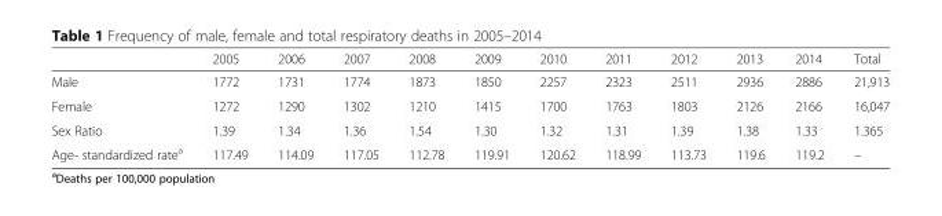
<table><thead><tr><td></td><td>2005</td><td>2006</td><td>2007</td><td>2008</td><td>2009</td><td>2010</td><td>2011</td><td>2012</td><td>2013</td><td>2014</td><td>Total</td></tr></thead><tbody><tr><td>Male</td><td>1772</td><td>1731</td><td>1774</td><td>1873</td><td>1850</td><td>2257</td><td>2323</td><td>2511</td><td>2936</td><td>2886</td><td>21,913</td></tr><tr><td>Female</td><td>1272</td><td>1290</td><td>1302</td><td>1210</td><td>1415</td><td>1700</td><td>1763</td><td>1803</td><td>2126</td><td>2166</td><td>16,047</td></tr><tr><td>Sex Ratio</td><td>1.39</td><td>1.34</td><td>1.36</td><td>1.54</td><td>1.30</td><td>1.32</td><td>1.31</td><td>1.39</td><td>1.38</td><td>1.33</td><td>1.365</td></tr><tr><td>Age- standardized rate<sup>a</sup></td><td>117.49</td><td>114.09</td><td>117.05</td><td>112.78</td><td>119.91</td><td>120.62</td><td>118.99</td><td>113.73</td><td>119.6</td><td>119.2</td><td>–</td></tr></tbody></table>